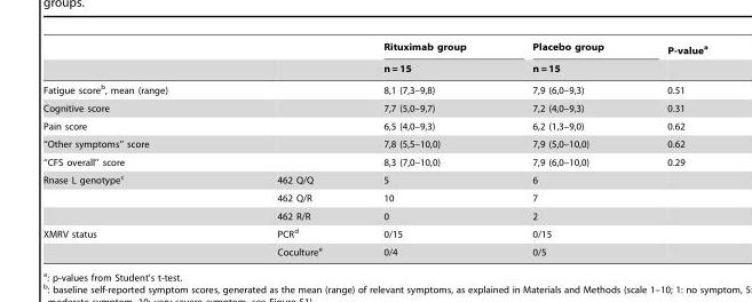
<table><thead><tr><td rowspan="2"></td><td rowspan="2"></td><td rowspan="2">Rituximab group n = 15</td><td rowspan="2">Placebo group n = 15</td><td rowspan="2">P-value<sup>a</sup></td></tr><tr></tr></thead><tbody><tr><td>Fatigue score<sup>b</sup>, mean (range)</td><td></td><td>8,1 (7,3–9,8)</td><td>7,9 (6,0–9,3)</td><td>0.51</td></tr><tr><td>Cognitive score</td><td></td><td>7,7 (5,0–9,7)</td><td>7,2 (4,0–9,3)</td><td>0.31</td></tr><tr><td>Pain score</td><td></td><td>6,5 (4,0–9,3)</td><td>6,2 (1,3–9,0)</td><td>0.62</td></tr><tr><td>‘‘Other symptoms’’ score</td><td></td><td>7,8 (5,5–10,0)</td><td>7,9 (5,0–10,0)</td><td>0.62</td></tr><tr><td>‘‘CFS overall’’ score</td><td></td><td>8,3 (7,0–10,0)</td><td>7,9 (6,0–10,0)</td><td>0.29</td></tr><tr><td rowspan="3">Rnase L genotype<sup>c</sup></td><td>462 Q/Q</td><td>5</td><td>6</td><td></td></tr><tr><td>462 Q/R</td><td>10</td><td>7</td><td></td></tr><tr><td>462 R/R</td><td>0</td><td>2</td><td></td></tr><tr><td rowspan="2">XMRV status</td><td>PCR<sup>d</sup></td><td>0/15</td><td>0/15</td><td></td></tr><tr><td>Coculture<sup>e</sup></td><td>0/4</td><td>0/5</td><td></td></tr></tbody></table>